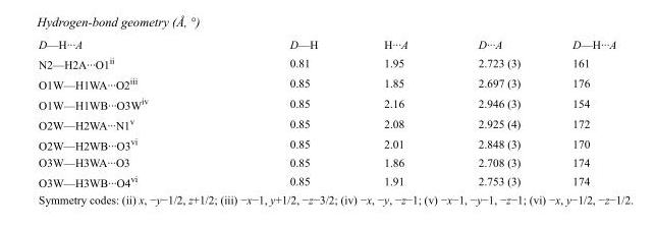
<table><tbody><tr><td>D—H···A</td><td>D—H</td><td>H···A</td><td>D···A</td><td>D—H···A</td></tr><tr><td>N2—H2A···O1<sup>ii</sup></td><td>0.81</td><td>1.95</td><td>2.723 (3)</td><td>161</td></tr><tr><td>O1W—H1WA···O2<sup>iii</sup></td><td>0.85</td><td>1.85</td><td>2.697 (3)</td><td>176</td></tr><tr><td>O1W—H1WB···O3W<sup>iv</sup></td><td>0.85</td><td>2.16</td><td>2.946 (3)</td><td>154</td></tr><tr><td>O2W—H2WA···N1<sup>v</sup></td><td>0.85</td><td>2.08</td><td>2.925 (4)</td><td>172</td></tr><tr><td>O2W—H2WB···O3<sup>vi</sup></td><td>0.85</td><td>2.01</td><td>2.848 (3)</td><td>170</td></tr><tr><td>O3W—H3WA···O3</td><td>0.85</td><td>1.86</td><td>2.708 (3)</td><td>174</td></tr><tr><td>O3W—H3WB···O4<sup>vi</sup></td><td>0.85</td><td>1.91</td><td>2.753 (3)</td><td>174</td></tr></tbody></table>